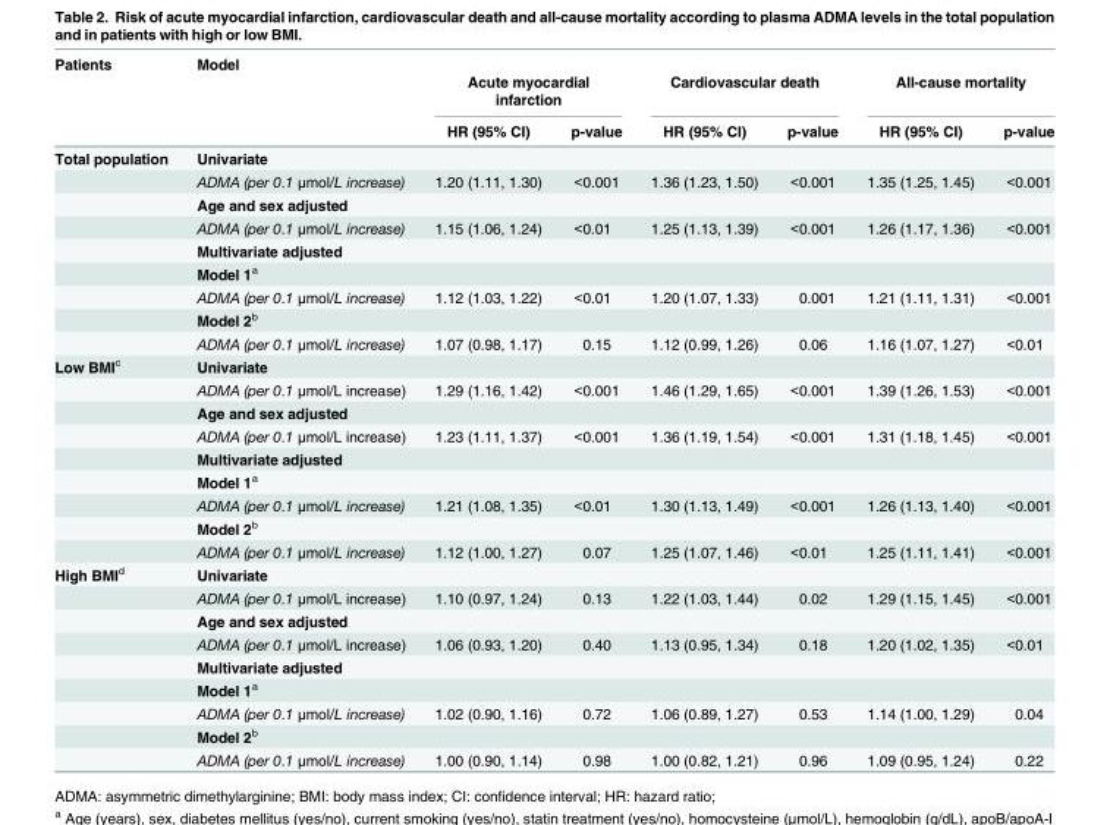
<table><thead><tr><td rowspan="3">Patients</td><td rowspan="3">Model</td><td></td><td></td><td></td><td></td><td></td><td></td></tr><tr><td colspan="2">Acute myocardial infarction</td><td colspan="2">Cardiovascular death</td><td colspan="2">All-cause mortality</td></tr><tr><td>HR (95% CI)</td><td>p-value</td><td>HR (95% CI)</td><td>p-value</td><td>HR (95% CI)</td><td>p-value</td></tr></thead><tbody><tr><td rowspan="9">Total population</td><td>Univariate</td><td></td><td></td><td></td><td></td><td></td><td></td></tr><tr><td>ADMA (per 0.1 μmol/L increase)</td><td>1.20 (1.11, 1.30)</td><td>&lt;0.001</td><td>1.36 (1.23, 1.50)</td><td>&lt;0.001</td><td>1.35 (1.25, 1.45)</td><td>&lt;0.001</td></tr><tr><td>Age and sex adjusted</td><td></td><td></td><td></td><td></td><td></td><td></td></tr><tr><td>ADMA (per 0.1 μmol/L increase)</td><td>1.15 (1.06, 1.24)</td><td>&lt;0.01</td><td>1.25 (1.13, 1.39)</td><td>&lt;0.001</td><td>1.26 (1.17, 1.36)</td><td>&lt;0.001</td></tr><tr><td>Multivariate adjusted</td><td></td><td></td><td></td><td></td><td></td><td></td></tr><tr><td>Model 1<sup>a</sup></td><td></td><td></td><td></td><td></td><td></td><td></td></tr><tr><td>ADMA (per 0.1 μmol/L increase)</td><td>1.12 (1.03, 1.22)</td><td>&lt;0.01</td><td>1.20 (1.07, 1.33)</td><td>0.001</td><td>1.21 (1.11, 1.31)</td><td>&lt;0.001</td></tr><tr><td>Model 2<sup>b</sup></td><td></td><td></td><td></td><td></td><td></td><td></td></tr><tr><td>ADMA (per 0.1 μmol/L increase)</td><td>1.07 (0.98, 1.17)</td><td>0.15</td><td>1.12 (0.99, 1.26)</td><td>0.06</td><td>1.16 (1.07, 1.27)</td><td>&lt;0.01</td></tr><tr><td rowspan="9">Low BMI<sup>c</sup></td><td>Univariate</td><td></td><td></td><td></td><td></td><td></td><td></td></tr><tr><td>ADMA (per 0.1 μmol/L increase)</td><td>1.29 (1.16, 1.42)</td><td>&lt;0.001</td><td>1.46 (1.29, 1.65)</td><td>&lt;0.001</td><td>1.39 (1.26, 1.53)</td><td>&lt;0.001</td></tr><tr><td>Age and sex adjusted</td><td></td><td></td><td></td><td></td><td></td><td></td></tr><tr><td>ADMA (per 0.1 μmol/L increase)</td><td>1.23 (1.11, 1.37)</td><td>&lt;0.001</td><td>1.36 (1.19, 1.54)</td><td>&lt;0.001</td><td>1.31 (1.18, 1.45)</td><td>&lt;0.001</td></tr><tr><td>Multivariate adjusted</td><td></td><td></td><td></td><td></td><td></td><td></td></tr><tr><td>Model 1<sup>a</sup></td><td></td><td></td><td></td><td></td><td></td><td></td></tr><tr><td>ADMA (per 0.1 μmol/L increase)</td><td>1.21 (1.08, 1.35)</td><td>&lt;0.01</td><td>1.30 (1.13, 1.49)</td><td>&lt;0.001</td><td>1.26 (1.13, 1.40)</td><td>&lt;0.001</td></tr><tr><td>Model 2<sup>b</sup></td><td></td><td></td><td></td><td></td><td></td><td></td></tr><tr><td>ADMA (per 0.1 μmol/L increase)</td><td>1.12 (1.00, 1.27)</td><td>0.07</td><td>1.25 (1.07, 1.46)</td><td>&lt;0.01</td><td>1.25 (1.11, 1.41)</td><td>&lt;0.001</td></tr><tr><td rowspan="9">High BMI<sup>d</sup></td><td>Univariate</td><td></td><td></td><td></td><td></td><td></td><td></td></tr><tr><td>ADMA (per 0.1 μmol/L increase)</td><td>1.10 (0.97, 1.24)</td><td>0.13</td><td>1.22 (1.03, 1.44)</td><td>0.02</td><td>1.29 (1.15, 1.45)</td><td>&lt;0.001</td></tr><tr><td>Age and sex adjusted</td><td></td><td></td><td></td><td></td><td></td><td></td></tr><tr><td>ADMA (per 0.1 μmol/L increase)</td><td>1.06 (0.93, 1.20)</td><td>0.40</td><td>1.13 (0.95, 1.34)</td><td>0.18</td><td>1.20 (1.02, 1.35)</td><td>&lt;0.01</td></tr><tr><td>Multivariate adjusted</td><td></td><td></td><td></td><td></td><td></td><td></td></tr><tr><td>Model 1<sup>a</sup></td><td></td><td></td><td></td><td></td><td></td><td></td></tr><tr><td>ADMA (per 0.1 μmol/L increase)</td><td>1.02 (0.90, 1.16)</td><td>0.72</td><td>1.06 (0.89, 1.27)</td><td>0.53</td><td>1.14 (1.00, 1.29)</td><td>0.04</td></tr><tr><td>Model 2<sup>b</sup></td><td></td><td></td><td></td><td></td><td></td><td></td></tr><tr><td>ADMA (per 0.1 μmol/L increase)</td><td>1.00 (0.90, 1.14)</td><td>0.98</td><td>1.00 (0.82, 1.21)</td><td>0.96</td><td>1.09 (0.95, 1.24)</td><td>0.22</td></tr></tbody></table>